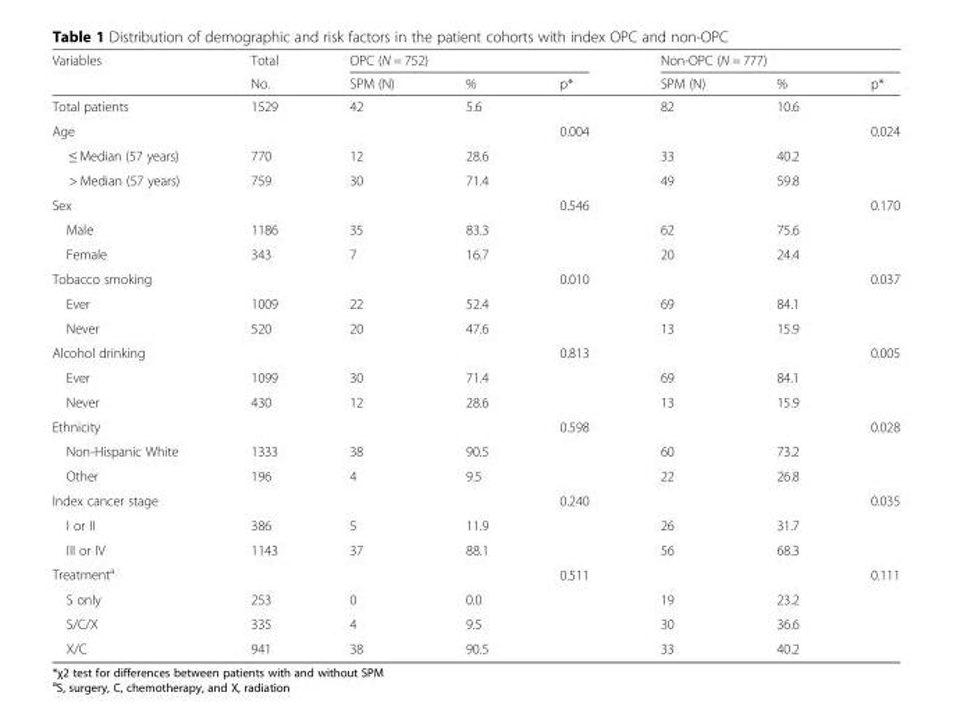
<table><thead><tr><td rowspan="2">Variables</td><td rowspan="2">Total No.</td><td colspan="3">OPC (N = 752)</td><td colspan="3">Non-OPC (N = 777)</td></tr><tr><td>SPM (N)</td><td>%</td><td>p*</td><td>SPM (N)</td><td>%</td><td>p*</td></tr></thead><tbody><tr><td>Total patients</td><td>1529</td><td>42</td><td>5.6</td><td></td><td>82</td><td>10.6</td><td></td></tr><tr><td>Age</td><td></td><td></td><td></td><td>0.004</td><td></td><td></td><td>0.024</td></tr><tr><td>≤ Median (57 years)</td><td>770</td><td>12</td><td>28.6</td><td></td><td>33</td><td>40.2</td><td></td></tr><tr><td>&gt; Median (57 years)</td><td>759</td><td>30</td><td>71.4</td><td></td><td>49</td><td>59.8</td><td></td></tr><tr><td>Sex</td><td></td><td></td><td></td><td>0.546</td><td></td><td></td><td>0.170</td></tr><tr><td>Male</td><td>1186</td><td>35</td><td>83.3</td><td></td><td>62</td><td>75.6</td><td></td></tr><tr><td>Female</td><td>343</td><td>7</td><td>16.7</td><td></td><td>20</td><td>24.4</td><td></td></tr><tr><td>Tobacco smoking</td><td></td><td></td><td></td><td>0.010</td><td></td><td></td><td>0.037</td></tr><tr><td>Ever</td><td>1009</td><td>22</td><td>52.4</td><td></td><td>69</td><td>84.1</td><td></td></tr><tr><td>Never</td><td>520</td><td>20</td><td>47.6</td><td></td><td>13</td><td>15.9</td><td></td></tr><tr><td>Alcohol drinking</td><td></td><td></td><td></td><td>0.813</td><td></td><td></td><td>0.005</td></tr><tr><td>Ever</td><td>1099</td><td>30</td><td>71.4</td><td></td><td>69</td><td>84.1</td><td></td></tr><tr><td>Never</td><td>430</td><td>12</td><td>28.6</td><td></td><td>13</td><td>15.9</td><td></td></tr><tr><td>Ethnicity</td><td></td><td></td><td></td><td>0.598</td><td></td><td></td><td>0.028</td></tr><tr><td>Non-Hispanic White</td><td>1333</td><td>38</td><td>90.5</td><td></td><td>60</td><td>73.2</td><td></td></tr><tr><td>Other</td><td>196</td><td>4</td><td>9.5</td><td></td><td>22</td><td>26.8</td><td></td></tr><tr><td>Index cancer stage</td><td></td><td></td><td></td><td>0.240</td><td></td><td></td><td>0.035</td></tr><tr><td>I or II</td><td>386</td><td>5</td><td>11.9</td><td></td><td>26</td><td>31.7</td><td></td></tr><tr><td>III or IV</td><td>1143</td><td>37</td><td>88.1</td><td></td><td>56</td><td>68.3</td><td></td></tr><tr><td>Treatment<sup>a</sup></td><td></td><td></td><td></td><td>0.511</td><td></td><td></td><td>0.111</td></tr><tr><td>S only</td><td>253</td><td>0</td><td>0.0</td><td></td><td>19</td><td>23.2</td><td></td></tr><tr><td>S/C/X</td><td>335</td><td>4</td><td>9.5</td><td></td><td>30</td><td>36.6</td><td></td></tr><tr><td>X/C</td><td>941</td><td>38</td><td>90.5</td><td></td><td>33</td><td>40.2</td><td></td></tr></tbody></table>